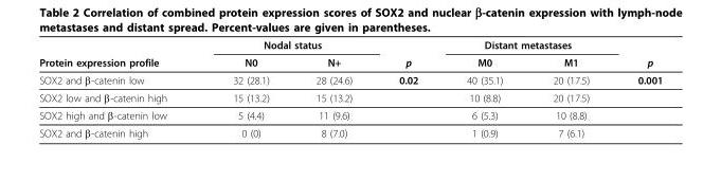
<table><thead><tr><td rowspan="2">Protein expression profile</td><td colspan="2">Nodal status</td><td rowspan="2">p</td><td colspan="2">Distant metastases</td><td rowspan="2">p</td></tr><tr><td>N0</td><td>N+</td><td>M0</td><td>M1</td></tr></thead><tbody><tr><td>SOX2 and β-catenin low</td><td>32 (28.1)</td><td>28 (24.6)</td><td>0.02</td><td>40 (35.1)</td><td>20 (17.5)</td><td>0.001</td></tr><tr><td>SOX2 low and β-catenin high</td><td>15 (13.2)</td><td>15 (13.2)</td><td></td><td>10 (8.8)</td><td>20 (17.5)</td><td></td></tr><tr><td>SOX2 high and β-catenin low</td><td>5 (4.4)</td><td>11 (9.6)</td><td></td><td>6 (5.3)</td><td>10 (8.8)</td><td></td></tr><tr><td>SOX2 and β-catenin high</td><td>0 (0)</td><td>8 (7.0)</td><td></td><td>1 (0.9)</td><td>7 (6.1)</td><td></td></tr></tbody></table>